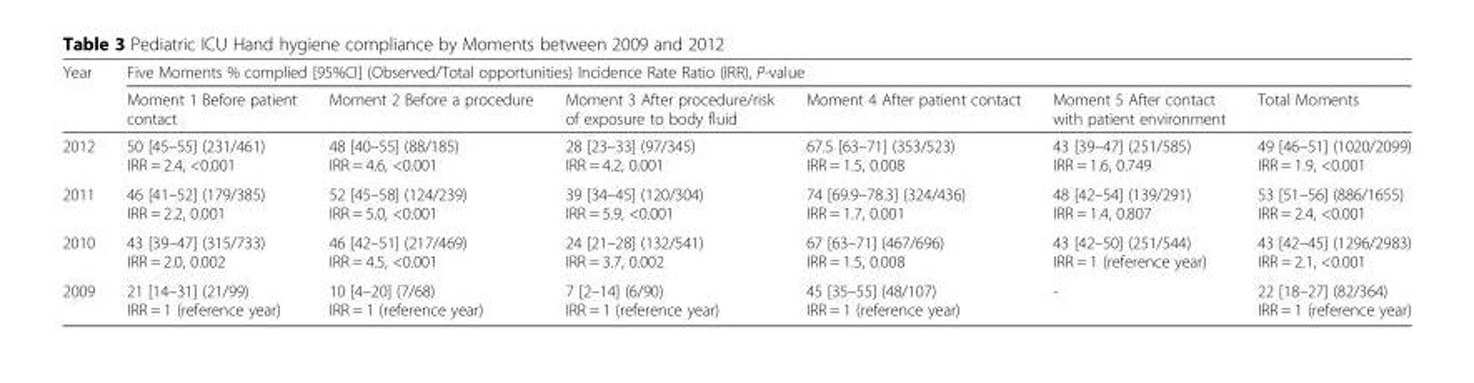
<table><thead><tr><td rowspan="2">Year</td><td colspan="6">Five Moments % complied [95%CI] (Observed/Total opportunities) Incidence Rate Ratio (IRR), P-value</td></tr><tr><td>Moment 1 Before patient contact</td><td>Moment 2 Before a procedure</td><td>Moment 3 After procedure/risk of exposure to body fluid</td><td>Moment 4 After patient contact</td><td>Moment 5 After contact with patient environment</td><td>Total Moments</td></tr></thead><tbody><tr><td>2012</td><td>50 [45–55] (231/461) IRR = 2.4, &lt;0.001</td><td>48 [40–55] (88/185) IRR = 4.6, &lt;0.001</td><td>28 [23–33] (97/345) IRR = 4.2, 0.001</td><td>67.5 [63–71] (353/523) IRR = 1.5, 0.008</td><td>43 [39–47] (251/585) IRR = 1.6, 0.749</td><td>49 [46–51] (1020/2099) IRR = 1.9, &lt;0.001</td></tr><tr><td>2011</td><td>46 [41–52] (179/385) IRR = 2.2, 0.001</td><td>52 [45–58] (124/239) IRR = 5.0, &lt;0.001</td><td>39 [34–45] (120/304) IRR = 5.9, &lt;0.001</td><td>74 [69.9–78.3] (324/436) IRR = 1.7, 0.001</td><td>48 [42–54] (139/291) IRR = 1.4, 0.807</td><td>53 [51–56] (886/1655) IRR = 2.4, &lt;0.001</td></tr><tr><td>2010</td><td>43 [39–47] (315/733) IRR = 2.0, 0.002</td><td>46 [42–51] (217/469) IRR = 4.5, &lt;0.001</td><td>24 [21–28] (132/541) IRR = 3.7, 0.002</td><td>67 [63–71] (467/696) IRR = 1.5, 0.008</td><td>43 [42–50] (251/544) IRR = 1 (reference year)</td><td>43 [42–45] (1296/2983) IRR = 2.1, &lt;0.001</td></tr><tr><td>2009</td><td>21 [14–31] (21/99) IRR = 1 (reference year)</td><td>10 [4–20] (7/68) IRR = 1 (reference year)</td><td>7 [2–14] (6/90) IRR = 1 (reference year)</td><td>45 [35–55] (48/107) IRR = 1 (reference year)</td><td>-</td><td>22 [18–27] (82/364) IRR = 1 (reference year)</td></tr></tbody></table>